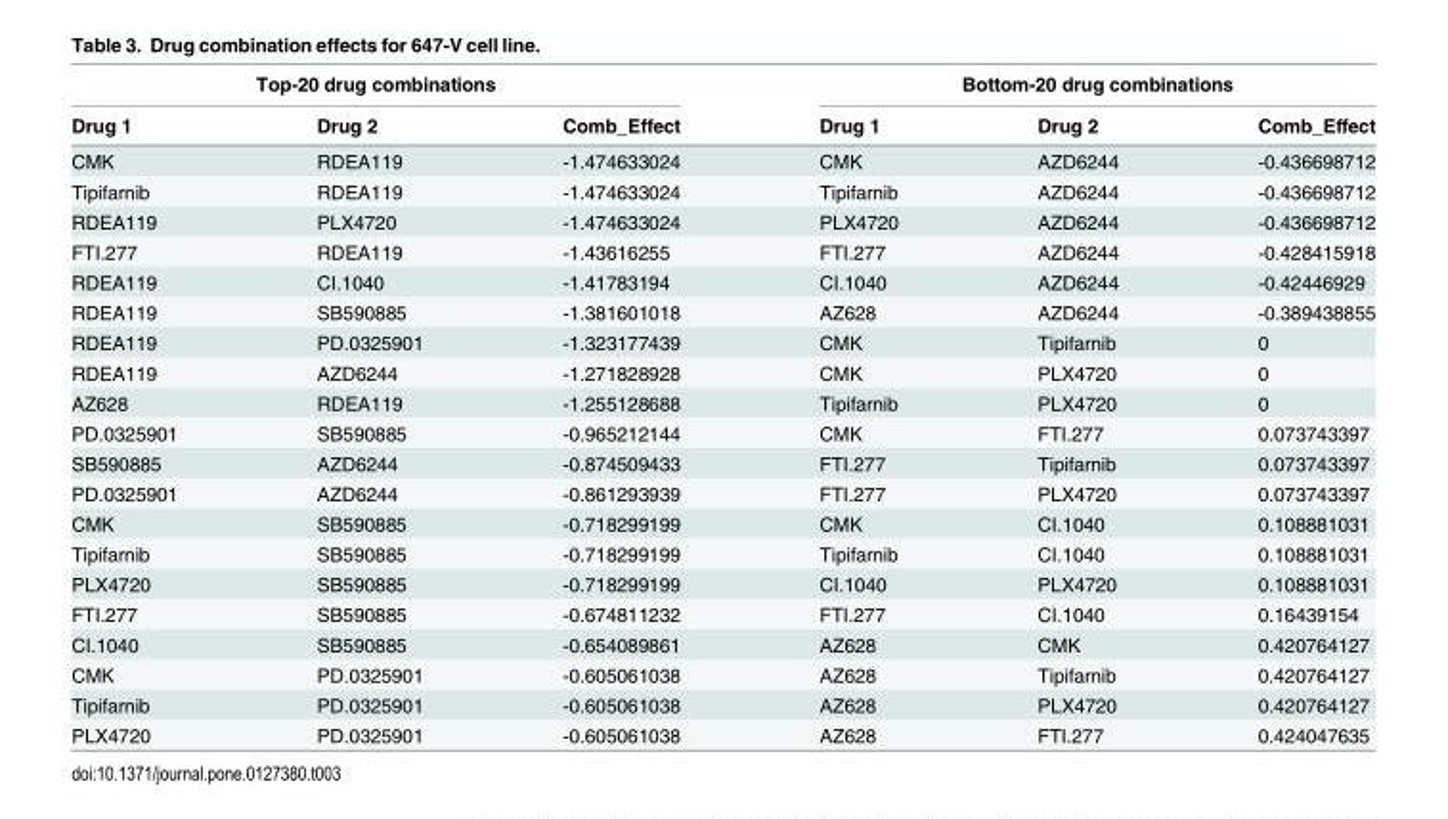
<table><thead><tr><td colspan="3">Top-20 drug combinations</td><td colspan="3">Bottom-20 drug combinations</td></tr><tr><td>Drug 1</td><td>Drug 2</td><td>Comb_Effect</td><td>Drug 1</td><td>Drug 2</td><td>Comb_Effect</td></tr></thead><tbody><tr><td>CMK</td><td>RDEA119</td><td>-1.474633024</td><td>CMK</td><td>AZD6244</td><td>-0.436698712</td></tr><tr><td>Tipifarnib</td><td>RDEA119</td><td>-1.474633024</td><td>Tipifarnib</td><td>AZD6244</td><td>-0.436698712</td></tr><tr><td>RDEA119</td><td>PLX4720</td><td>-1.474633024</td><td>PLX4720</td><td>AZD6244</td><td>-0.436698712</td></tr><tr><td>FTI.277</td><td>RDEA119</td><td>-1.43616255</td><td>FTI.277</td><td>AZD6244</td><td>-0.428415918</td></tr><tr><td>RDEA119</td><td>CI.1040</td><td>-1.41783194</td><td>CI.1040</td><td>AZD6244</td><td>-0.42446929</td></tr><tr><td>RDEA119</td><td>SB590885</td><td>-1.381601018</td><td>AZ628</td><td>AZD6244</td><td>-0.389438855</td></tr><tr><td>RDEA119</td><td>PD.0325901</td><td>-1.323177439</td><td>CMK</td><td>Tipifarnib</td><td>0</td></tr><tr><td>RDEA119</td><td>AZD6244</td><td>-1.271828928</td><td>CMK</td><td>PLX4720</td><td>0</td></tr><tr><td>AZ628</td><td>RDEA119</td><td>-1.255128688</td><td>Tipifarnib</td><td>PLX4720</td><td>0</td></tr><tr><td>PD.0325901</td><td>SB590885</td><td>-0.965212144</td><td>CMK</td><td>FTI.277</td><td>0.073743397</td></tr><tr><td>SB590885</td><td>AZD6244</td><td>-0.874509433</td><td>FTI.277</td><td>Tipifarnib</td><td>0.073743397</td></tr><tr><td>PD.0325901</td><td>AZD6244</td><td>-0.861293939</td><td>FTI.277</td><td>PLX4720</td><td>0.073743397</td></tr><tr><td>CMK</td><td>SB590885</td><td>-0.718299199</td><td>CMK</td><td>CI.1040</td><td>0.108881031</td></tr><tr><td>Tipifarnib</td><td>SB590885</td><td>-0.718299199</td><td>Tipifarnib</td><td>CI.1040</td><td>0.108881031</td></tr><tr><td>PLX4720</td><td>SB590885</td><td>-0.718299199</td><td>CI.1040</td><td>PLX4720</td><td>0.108881031</td></tr><tr><td>FTI.277</td><td>SB590885</td><td>-0.674811232</td><td>FTI.277</td><td>CI.1040</td><td>0.16439154</td></tr><tr><td>CI.1040</td><td>SB590885</td><td>-0.654089861</td><td>AZ628</td><td>CMK</td><td>0.420764127</td></tr><tr><td>CMK</td><td>PD.0325901</td><td>-0.605061038</td><td>AZ628</td><td>Tipifarnib</td><td>0.420764127</td></tr><tr><td>Tipifarnib</td><td>PD.0325901</td><td>-0.605061038</td><td>AZ628</td><td>PLX4720</td><td>0.420764127</td></tr><tr><td>PLX4720</td><td>PD.0325901</td><td>-0.605061038</td><td>AZ628</td><td>FTI.277</td><td>0.424047635</td></tr></tbody></table>